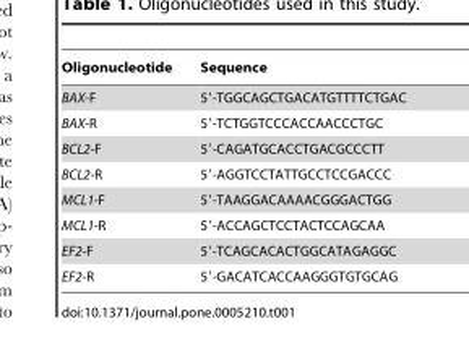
<table><thead><tr><td>Oligonucleotide</td><td>Sequence</td></tr></thead><tbody><tr><td>BAX-F</td><td>5′-TGGCAGCTGACATGTTTTCTGAC</td></tr><tr><td>BAX-R</td><td>5′-TCTGGTCCCACCAACCCTGC</td></tr><tr><td>BCL2-F</td><td>5′-CAGATGCACCTGACGCCCTT</td></tr><tr><td>BCL2-R</td><td>5′-AGGTCCTATTGCCTCCGACCC</td></tr><tr><td>MCL1-F</td><td>5′-TAAGGACAAAACGGGACTGG</td></tr><tr><td>MCL1-R</td><td>5′-ACCAGCTCCTACTCCAGCAA</td></tr><tr><td>EF2-F</td><td>5′-TCAGCACACTGGCATAGAGGC</td></tr><tr><td>EF2-R</td><td>5′-GACATCACCAAGGGTGTGCAG</td></tr></tbody></table>